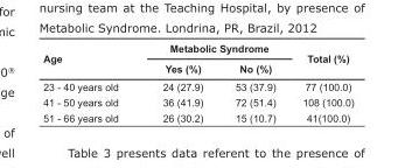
<table><thead><tr><td rowspan="2">Age</td><td colspan="2">Metabolic Syndrome</td><td rowspan="2">Total (%)</td></tr><tr><td>Yes (%)</td><td>No (%)</td></tr></thead><tbody><tr><td>23 - 40 years old</td><td>24 (27.9)</td><td>53 (37.9)</td><td>77 (100.0)</td></tr><tr><td>41 - 50 years old</td><td>36 (41.9)</td><td>72 (51.4)</td><td>108 (100.0)</td></tr><tr><td>51 - 66 years old</td><td>26 (30.2)</td><td>15 (10.7)</td><td>41(100.0)</td></tr></tbody></table>